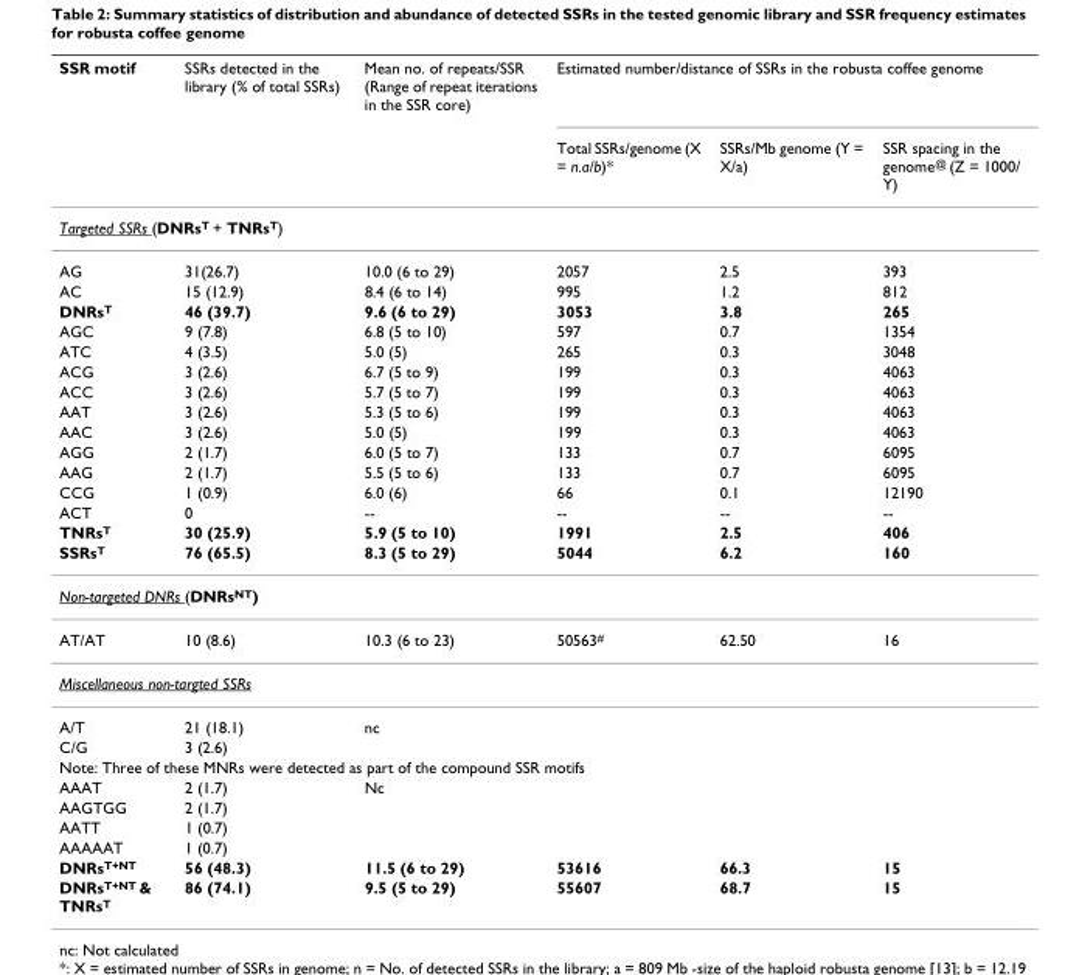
<table><thead><tr><td rowspan="2">SSR motif</td><td rowspan="2">SSRs detected in the library (% of total SSRs)</td><td rowspan="2">Mean no. of repeats/SSR (Range of repeat iterations in the SSR core)</td><td colspan="3">Estimated number/distance of SSRs in the robusta coffee genome</td></tr><tr><td>Total SSRs/genome (X = n.a/b)*</td><td>SSRs/Mb genome (Y = X/a)</td><td>SSR spacing in the genome<sup>@</sup> (Z = 1000/ Y)</td></tr></thead><tbody><tr><td colspan="6">Targeted SSRs (DNRs<sup>T</sup> + TNRs<sup>T</sup>)</td></tr><tr><td>AG</td><td>31(26.7)</td><td>10.0 (6 to 29)</td><td>2057</td><td>2.5</td><td>393</td></tr><tr><td>AC</td><td>15 (12.9)</td><td>8.4 (6 to 14)</td><td>995</td><td>1.2</td><td>812</td></tr><tr><td>DNRs<sup>T</sup></td><td>46 (39.7)</td><td>9.6 (6 to 29)</td><td>3053</td><td>3.8</td><td>265</td></tr><tr><td>AGC</td><td>9 (7.8)</td><td>6.8 (5 to 10)</td><td>597</td><td>0.7</td><td>1354</td></tr><tr><td>ATC</td><td>4 (3.5)</td><td>5.0 (5)</td><td>265</td><td>0.3</td><td>3048</td></tr><tr><td>ACG</td><td>3 (2.6)</td><td>6.7 (5 to 9)</td><td>199</td><td>0.3</td><td>4063</td></tr><tr><td>ACC</td><td>3 (2.6)</td><td>5.7 (5 to 7)</td><td>199</td><td>0.3</td><td>4063</td></tr><tr><td>AAT</td><td>3 (2.6)</td><td>5.3 (5 to 6)</td><td>199</td><td>0.3</td><td>4063</td></tr><tr><td>AAC</td><td>3 (2.6)</td><td>5.0 (5)</td><td>199</td><td>0.3</td><td>4063</td></tr><tr><td>AGG</td><td>2 (1.7)</td><td>6.0 (5 to 7)</td><td>133</td><td>0.7</td><td>6095</td></tr><tr><td>AAG</td><td>2 (1.7)</td><td>5.5 (5 to 6)</td><td>133</td><td>0.7</td><td>6095</td></tr><tr><td>CCG</td><td>1 (0.9)</td><td>6.0 (6)</td><td>66</td><td>0.1</td><td>12190</td></tr><tr><td>ACT</td><td>0</td><td>--</td><td>--</td><td>--</td><td>--</td></tr><tr><td>TNRs<sup>T</sup></td><td>30 (25.9)</td><td>5.9 (5 to 10)</td><td>1991</td><td>2.5</td><td>406</td></tr><tr><td>SSRs<sup>T</sup></td><td>76 (65.5)</td><td>8.3 (5 to 29)</td><td>5044</td><td>6.2</td><td>160</td></tr><tr><td colspan="6">Non-targeted DNRs (DNRs<sup>NT</sup>)</td></tr><tr><td>AT/AT</td><td>10 (8.6)</td><td>10.3 (6 to 23)</td><td>50563<sup>#</sup></td><td>62.50</td><td>16</td></tr><tr><td colspan="6">Miscellaneous non-targted SSRs</td></tr><tr><td>A/T</td><td>21 (18.1)</td><td colspan="4">nc</td></tr><tr><td>C/G</td><td>3 (2.6)</td><td></td><td></td><td></td><td></td></tr><tr><td colspan="6">Note: Three of these MNRs were detected as part of the compound SSR motifs</td></tr><tr><td>AAAT</td><td>2 (1.7)</td><td>Nc</td><td></td><td></td><td></td></tr><tr><td>AAGTGG</td><td>2 (1.7)</td><td></td><td></td><td></td><td></td></tr><tr><td>AATT</td><td>1 (0.7)</td><td></td><td></td><td></td><td></td></tr><tr><td>AAAAAT</td><td>1 (0.7)</td><td></td><td></td><td></td><td></td></tr><tr><td>DNRs<sup>T+NT</sup></td><td>56 (48.3)</td><td>11.5 (6 to 29)</td><td>53616</td><td>66.3</td><td>15</td></tr><tr><td>DNRs<sup>T+NT</sup> &amp; TNRs<sup>T</sup></td><td>86 (74.1)</td><td>9.5 (5 to 29)</td><td>55607</td><td>68.7</td><td>15</td></tr></tbody></table>